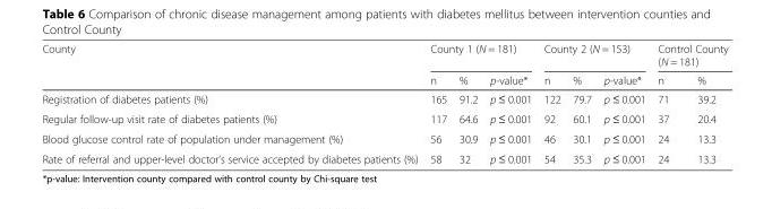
<table><thead><tr><td rowspan="2">County</td><td colspan="3">County 1 (N = 181)</td><td colspan="3">County 2 (N = 153)</td><td colspan="2">Control County (N = 181)</td></tr><tr><td>n</td><td>%</td><td>p-value*</td><td>n</td><td>%</td><td>p-value*</td><td>n</td><td>%</td></tr></thead><tbody><tr><td>Registration of diabetes patients (%)</td><td>165</td><td>91.2</td><td>p ≤ 0.001</td><td>122</td><td>79.7</td><td>p ≤ 0.001</td><td>71</td><td>39.2</td></tr><tr><td>Regular follow-up visit rate of diabetes patients (%)</td><td>117</td><td>64.6</td><td>p ≤ 0.001</td><td>92</td><td>60.1</td><td>p ≤ 0.001</td><td>37</td><td>20.4</td></tr><tr><td>Blood glucose control rate of population under management (%)</td><td>56</td><td>30.9</td><td>p ≤ 0.001</td><td>46</td><td>30.1</td><td>p ≤ 0.001</td><td>24</td><td>13.3</td></tr><tr><td>Rate of referral and upper-level doctor’s service accepted by diabetes patients (%)</td><td>58</td><td>32</td><td>p ≤ 0.001</td><td>54</td><td>35.3</td><td>p ≤ 0.001</td><td>24</td><td>13.3</td></tr></tbody></table>